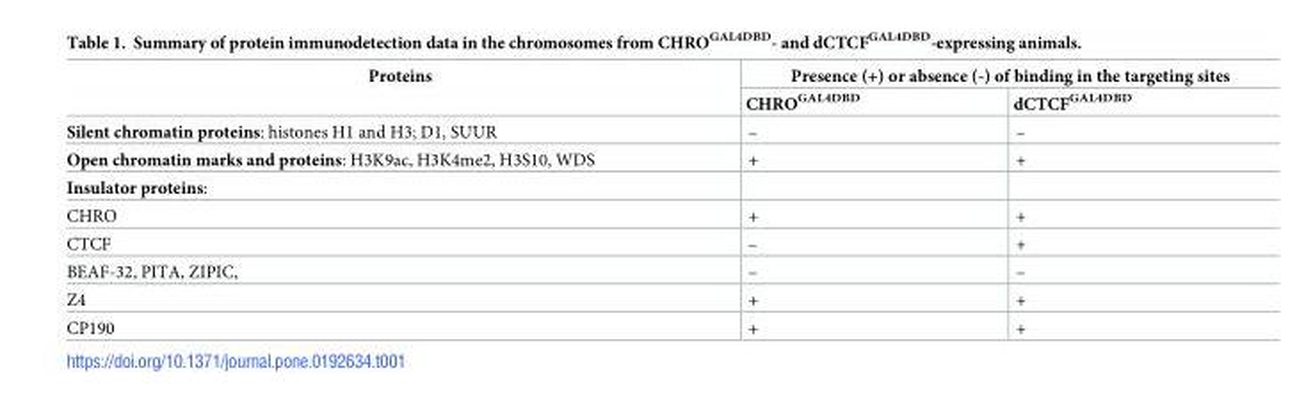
<table><thead><tr><td rowspan="2">Proteins</td><td colspan="2">Presence (+) or absence (-) of binding in the targeting sites</td></tr><tr><td>CHRO<sup>GAL4DBD</sup></td><td>dCTCF<sup>GAL4DBD</sup></td></tr></thead><tbody><tr><td>Silent chromatin proteins: histones H1 and H3; D1, SUUR</td><td>–</td><td>–</td></tr><tr><td>Open chromatin marks and proteins: H3K9ac, H3K4me2, H3S10, WDS</td><td>+</td><td>+</td></tr><tr><td colspan="3">Insulator proteins:</td></tr><tr><td>CHRO</td><td>+</td><td>+</td></tr><tr><td>CTCF</td><td>–</td><td>+</td></tr><tr><td>BEAF-32, PITA, ZIPIC,</td><td>–</td><td>–</td></tr><tr><td>Z4</td><td>+</td><td>+</td></tr><tr><td>CP190</td><td>+</td><td>+</td></tr></tbody></table>